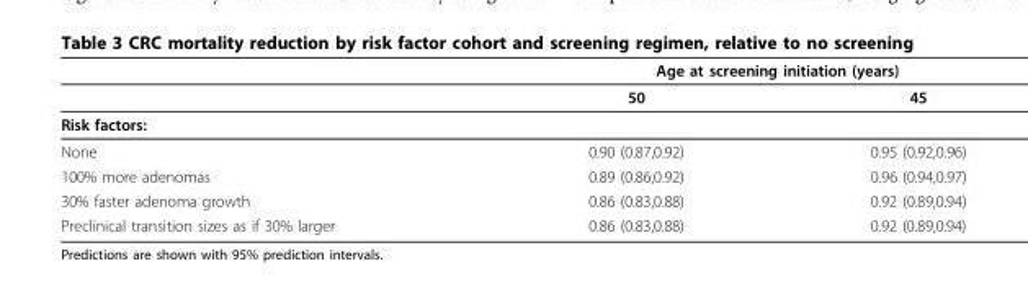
<table><thead><tr><td rowspan="2"></td><td colspan="2">Age at screening initiation (years)</td></tr><tr><td>50</td><td>45</td></tr></thead><tbody><tr><td colspan="3">Risk factors:</td></tr><tr><td>None</td><td>0.90 (0.87,0.92)</td><td>0.95 (0.92,0.96)</td></tr><tr><td>100% more adenomas</td><td>0.89 (0.86,0.92)</td><td>0.96 (0.94,0.97)</td></tr><tr><td>30% faster adenoma growth</td><td>0.86 (0.83,0.88)</td><td>0.92 (0.89,0.94)</td></tr><tr><td>Preclinical transition sizes as if 30% larger</td><td>0.86 (0.83,0.88)</td><td>0.92 (0.89,0.94)</td></tr></tbody></table>